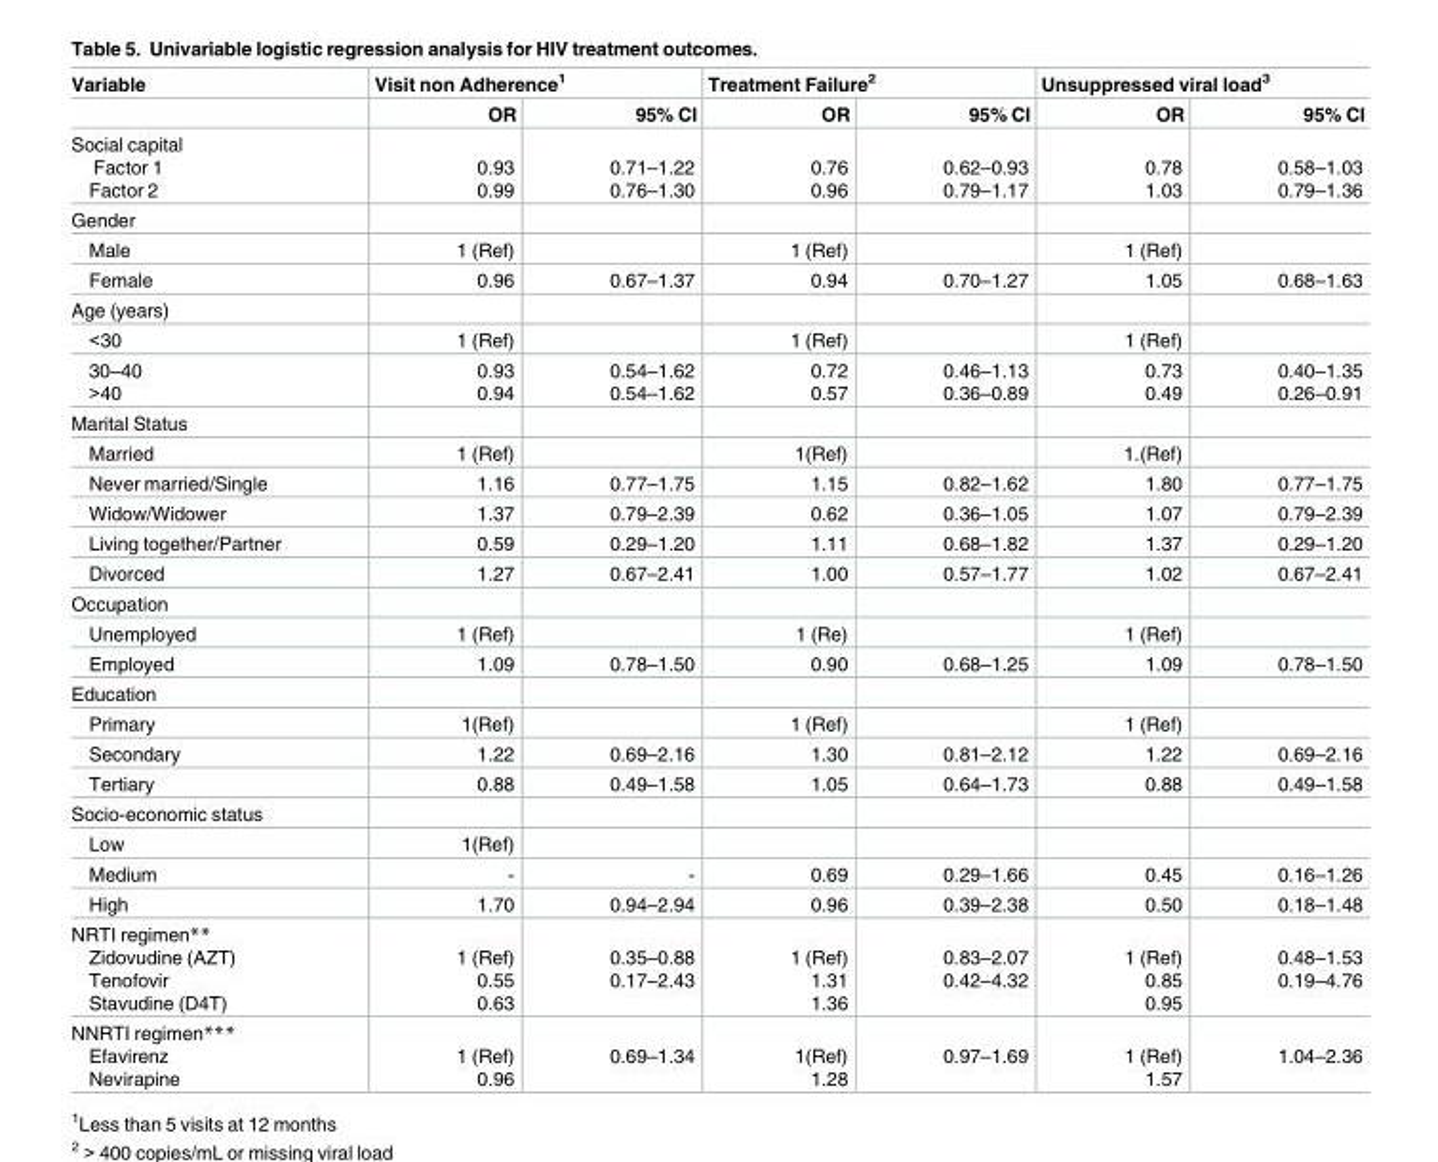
<table><thead><tr><td rowspan="2">Variable</td><td colspan="2">Visit non Adherence<sup>1</sup></td><td colspan="2">Treatment Failure<sup>2</sup></td><td colspan="2">Unsuppressed viral load<sup>3</sup></td></tr><tr><td>OR</td><td>95% CI</td><td>OR</td><td>95% CI</td><td>OR</td><td>95% CI</td></tr></thead><tbody><tr><td>Social capital Factor 1 Factor 2</td><td>0.93 0.99</td><td>0.71–1.22 0.76–1.30</td><td>0.76 0.96</td><td>0.62–0.93 0.79–1.17</td><td>0.78 1.03</td><td>0.58–1.03 0.79–1.36</td></tr><tr><td colspan="7">Gender</td></tr><tr><td>Male</td><td>1 (Ref)</td><td></td><td>1 (Ref)</td><td></td><td>1 (Ref)</td><td></td></tr><tr><td>Female</td><td>0.96</td><td>0.67–1.37</td><td>0.94</td><td>0.70–1.27</td><td>1.05</td><td>0.68–1.63</td></tr><tr><td colspan="7">Age (years)</td></tr><tr><td>&lt;30</td><td>1 (Ref)</td><td></td><td>1 (Ref)</td><td></td><td>1 (Ref)</td><td></td></tr><tr><td>30–40 &gt;40</td><td>0.93 0.94</td><td>0.54–1.62 0.54–1.62</td><td>0.72 0.57</td><td>0.46–1.13 0.36–0.89</td><td>0.73 0.49</td><td>0.40–1.35 0.26–0.91</td></tr><tr><td colspan="7">Marital Status</td></tr><tr><td>Married</td><td>1 (Ref)</td><td></td><td>1(Ref)</td><td></td><td>1.(Ref)</td><td></td></tr><tr><td>Never married/Single</td><td>1.16</td><td>0.77–1.75</td><td>1.15</td><td>0.82–1.62</td><td>1.80</td><td>0.77–1.75</td></tr><tr><td>Widow/Widower</td><td>1.37</td><td>0.79–2.39</td><td>0.62</td><td>0.36–1.05</td><td>1.07</td><td>0.79–2.39</td></tr><tr><td>Living together/Partner</td><td>0.59</td><td>0.29–1.20</td><td>1.11</td><td>0.68–1.82</td><td>1.37</td><td>0.29–1.20</td></tr><tr><td>Divorced</td><td>1.27</td><td>0.67–2.41</td><td>1.00</td><td>0.57–1.77</td><td>1.02</td><td>0.67–2.41</td></tr><tr><td colspan="7">Occupation</td></tr><tr><td>Unemployed</td><td>1 (Ref)</td><td></td><td>1 (Re)</td><td></td><td>1 (Ref)</td><td></td></tr><tr><td>Employed</td><td>1.09</td><td>0.78–1.50</td><td>0.90</td><td>0.68–1.25</td><td>1.09</td><td>0.78–1.50</td></tr><tr><td colspan="7">Education</td></tr><tr><td>Primary</td><td>1(Ref)</td><td></td><td>1 (Ref)</td><td></td><td>1 (Ref)</td><td></td></tr><tr><td>Secondary</td><td>1.22</td><td>0.69–2.16</td><td>1.30</td><td>0.81–2.12</td><td>1.22</td><td>0.69–2.16</td></tr><tr><td>Tertiary</td><td>0.88</td><td>0.49–1.58</td><td>1.05</td><td>0.64–1.73</td><td>0.88</td><td>0.49–1.58</td></tr><tr><td colspan="7">Socio-economic status</td></tr><tr><td>Low</td><td>1(Ref)</td><td></td><td></td><td></td><td></td><td></td></tr><tr><td>Medium</td><td>-</td><td>-</td><td>0.69</td><td>0.29–1.66</td><td>0.45</td><td>0.16–1.26</td></tr><tr><td>High</td><td>1.70</td><td>0.94–2.94</td><td>0.96</td><td>0.39–2.38</td><td>0.50</td><td>0.18–1.48</td></tr><tr><td>NRTI regimen** Zidovudine (AZT) Tenofovir Stavudine (D4T)</td><td>1 (Ref) 0.55 0.63</td><td>0.35–0.88 0.17–2.43</td><td>1 (Ref) 1.31 1.36</td><td>0.83–2.07 0.42–4.32</td><td>1 (Ref) 0.85 0.95</td><td>0.48–1.53 0.19–4.76</td></tr><tr><td>NNRTI regimen*** Efavirenz Nevirapine</td><td>1 (Ref) 0.96</td><td>0.69–1.34</td><td>1(Ref) 1.28</td><td>0.97–1.69</td><td>1 (Ref) 1.57</td><td>1.04–2.36</td></tr></tbody></table>